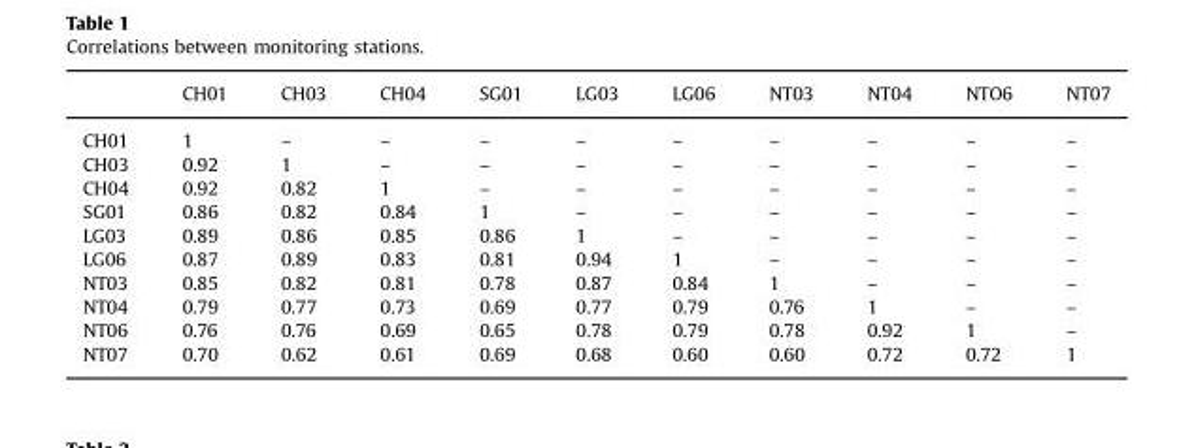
<table><thead><tr><td></td><td>CH01</td><td>CH03</td><td>CH04</td><td>SG01</td><td>LG03</td><td>LG06</td><td>NT03</td><td>NT04</td><td>NTO6</td><td>NT07</td></tr></thead><tbody><tr><td>CH01</td><td>1</td><td>–</td><td>–</td><td>–</td><td>–</td><td>–</td><td>–</td><td>–</td><td>–</td><td>–</td></tr><tr><td>CH03</td><td>0.92</td><td>1</td><td>–</td><td>–</td><td>–</td><td>–</td><td>–</td><td>–</td><td>–</td><td>–</td></tr><tr><td>CH04</td><td>0.92</td><td>0.82</td><td>1</td><td>–</td><td>–</td><td>–</td><td>–</td><td>–</td><td>–</td><td>–</td></tr><tr><td>SG01</td><td>0.86</td><td>0.82</td><td>0.84</td><td>1</td><td>–</td><td>–</td><td>–</td><td>–</td><td>–</td><td>–</td></tr><tr><td>LG03</td><td>0.89</td><td>0.86</td><td>0.85</td><td>0.86</td><td>1</td><td>–</td><td>–</td><td>–</td><td>–</td><td>–</td></tr><tr><td>LG06</td><td>0.87</td><td>0.89</td><td>0.83</td><td>0.81</td><td>0.94</td><td>1</td><td>–</td><td>–</td><td>–</td><td>–</td></tr><tr><td>NT03</td><td>0.85</td><td>0.82</td><td>0.81</td><td>0.78</td><td>0.87</td><td>0.84</td><td>1</td><td>–</td><td>–</td><td>–</td></tr><tr><td>NT04</td><td>0.79</td><td>0.77</td><td>0.73</td><td>0.69</td><td>0.77</td><td>0.79</td><td>0.76</td><td>1</td><td>–</td><td>–</td></tr><tr><td>NT06</td><td>0.76</td><td>0.76</td><td>0.69</td><td>0.65</td><td>0.78</td><td>0.79</td><td>0.78</td><td>0.92</td><td>1</td><td>–</td></tr><tr><td>NT07</td><td>0.70</td><td>0.62</td><td>0.61</td><td>0.69</td><td>0.68</td><td>0.60</td><td>0.60</td><td>0.72</td><td>0.72</td><td>1</td></tr></tbody></table>